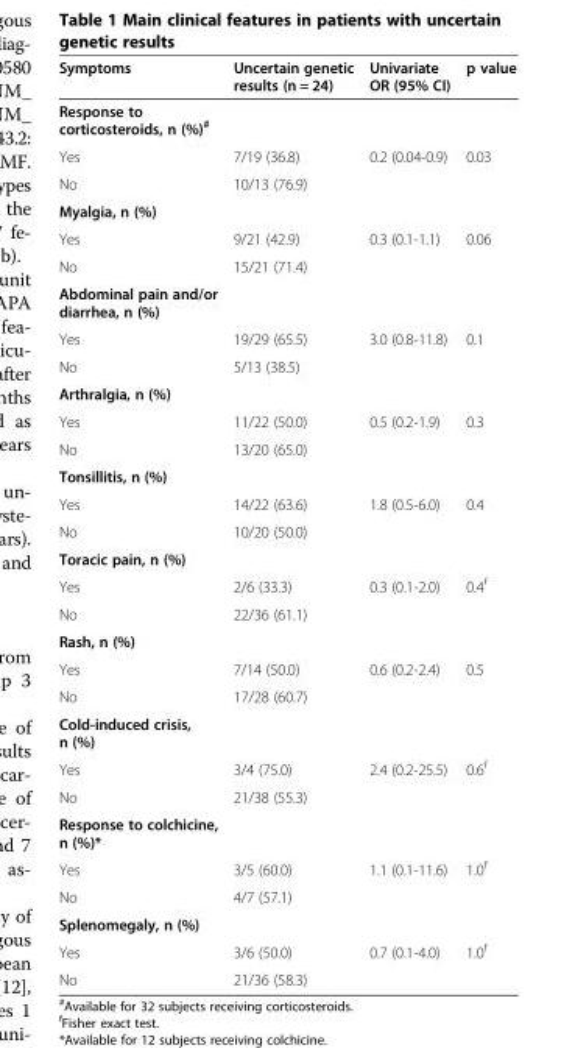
<table><thead><tr><td>Symptoms</td><td>Uncertain genetic results (n = 24)</td><td>Univariate OR (95% CI)</td><td>p value</td></tr></thead><tbody><tr><td colspan="4">Response to corticosteroids, n (%)<sup>#</sup></td></tr><tr><td>Yes</td><td>7/19 (36.8)</td><td rowspan="2">0.2 (0.04-0.9)</td><td rowspan="2">0.03</td></tr><tr><td>No</td><td>10/13 (76.9)</td></tr><tr><td colspan="4">Myalgia, n (%)</td></tr><tr><td>Yes</td><td>9/21 (42.9)</td><td>0.3 (0.1-1.1)</td><td rowspan="2">0.06</td></tr><tr><td>No</td><td>15/21 (71.4)</td><td></td></tr><tr><td colspan="4">Abdominal pain and/or diarrhea, n (%)</td></tr><tr><td>Yes</td><td>19/29 (65.5)</td><td>3.0 (0.8-11.8)</td><td rowspan="2">0.1</td></tr><tr><td>No</td><td>5/13 (38.5)</td><td></td></tr><tr><td colspan="4">Arthralgia, n (%)</td></tr><tr><td>Yes</td><td>11/22 (50.0)</td><td>0.5 (0.2-1.9)</td><td rowspan="2">0.3</td></tr><tr><td>No</td><td>13/20 (65.0)</td><td></td></tr><tr><td colspan="4">Tonsillitis, n (%)</td></tr><tr><td>Yes</td><td>14/22 (63.6)</td><td>1.8 (0.5-6.0)</td><td rowspan="2">0.4</td></tr><tr><td>No</td><td>10/20 (50.0)</td><td></td></tr><tr><td colspan="4">Toracic pain, n (%)</td></tr><tr><td>Yes</td><td>2/6 (33.3)</td><td>0.3 (0.1-2.0)</td><td rowspan="2">0.4<sup>f</sup></td></tr><tr><td>No</td><td>22/36 (61.1)</td><td></td></tr><tr><td colspan="4">Rash, n (%)</td></tr><tr><td>Yes</td><td>7/14 (50.0)</td><td>0.6 (0.2-2.4)</td><td rowspan="2">0.5</td></tr><tr><td>No</td><td>17/28 (60.7)</td><td></td></tr><tr><td colspan="4">Cold-induced crisis, n (%)</td></tr><tr><td>Yes</td><td>3/4 (75.0)</td><td>2.4 (0.2-25.5)</td><td rowspan="2">0.6<sup>f</sup></td></tr><tr><td>No</td><td>21/38 (55.3)</td><td></td></tr><tr><td colspan="4">Response to colchicine, n (%)*</td></tr><tr><td>Yes</td><td>3/5 (60.0)</td><td>1.1 (0.1-11.6)</td><td rowspan="2">1.0<sup>f</sup></td></tr><tr><td>No</td><td>4/7 (57.1)</td><td></td></tr><tr><td colspan="4">Splenomegaly, n (%)</td></tr><tr><td>Yes</td><td>3/6 (50.0)</td><td>0.7 (0.1-4.0)</td><td rowspan="2">1.0<sup>f</sup></td></tr><tr><td>No</td><td>21/36 (58.3)</td><td></td></tr></tbody></table>